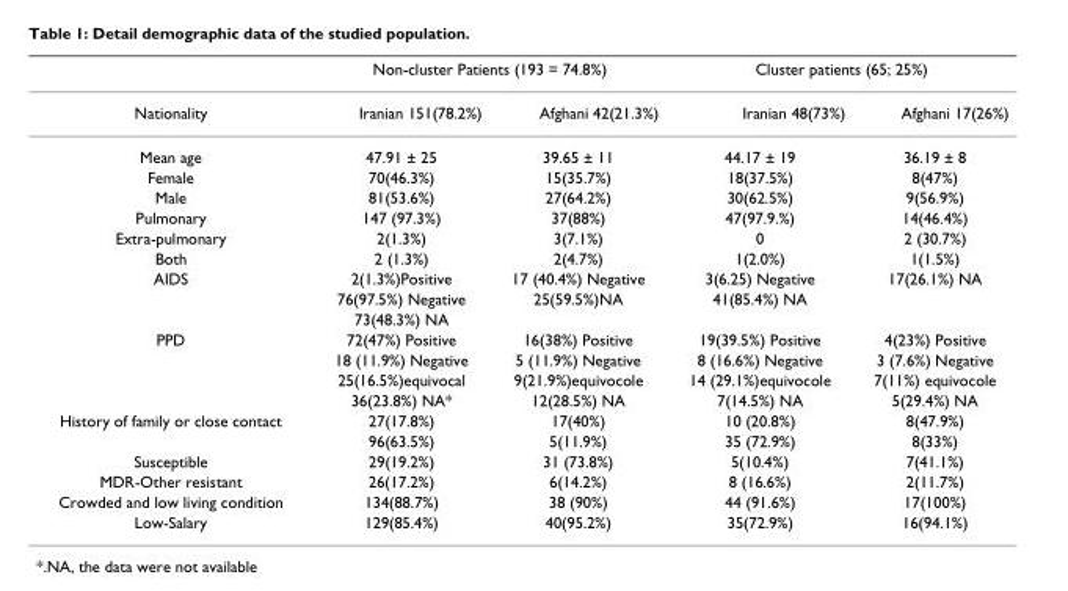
<table><thead><tr><td rowspan="2">Nationality</td><td colspan="2">Non-cluster Patients (193 = 74.8%)</td><td colspan="2">Cluster patients (65; 25%)</td></tr><tr><td>Iranian 151(78.2%)</td><td>Afghani 42(21.3%)</td><td>Iranian 48(73%)</td><td>Afghani 17(26%)</td></tr></thead><tbody><tr><td>Mean age</td><td>47.91 ± 25</td><td>39.65 ± 11</td><td>44.17 ± 19</td><td>36.19 ± 8</td></tr><tr><td>Female</td><td>70(46.3%)</td><td>15(35.7%)</td><td>18(37.5%)</td><td>8(47%)</td></tr><tr><td>Male</td><td>81(53.6%)</td><td>27(64.2%)</td><td>30(62.5%)</td><td>9(56.9%)</td></tr><tr><td>Pulmonary</td><td>147 (97.3%)</td><td>37(88%)</td><td>47(97.9.%)</td><td>14(46.4%)</td></tr><tr><td>Extra-pulmonary</td><td>2(1.3%)</td><td>3(7.1%)</td><td>0</td><td>2 (30.7%)</td></tr><tr><td>Both</td><td>2 (1.3%)</td><td>2(4.7%)</td><td>1(2.0%)</td><td>1(1.5%)</td></tr><tr><td rowspan="3">AIDS</td><td>2(1.3%)Positive</td><td>17 (40.4%) Negative</td><td>3(6.25) Negative</td><td>17(26.1%) NA</td></tr><tr><td>76(97.5%) Negative</td><td>25(59.5%)NA</td><td>41(85.4%) NA</td><td></td></tr><tr><td>73(48.3%) NA</td><td></td><td></td><td></td></tr><tr><td rowspan="4">PPD</td><td>72(47%) Positive</td><td>16(38%) Positive</td><td>19(39.5%) Positive</td><td>4(23%) Positive</td></tr><tr><td>18 (11.9%) Negative</td><td>5 (11.9%) Negative</td><td>8 (16.6%) Negative</td><td>3 (7.6%) Negative</td></tr><tr><td>25(16.5%)equivocal</td><td>9(21.9%)equivocole</td><td>14 (29.1%)equivocole</td><td>7(11%) equivocole</td></tr><tr><td>36(23.8%) NA*</td><td>12(28.5%) NA</td><td>7(14.5%) NA</td><td>5(29.4%) NA</td></tr><tr><td rowspan="2">History of family or close contact</td><td>27(17.8%)</td><td>17(40%)</td><td>10 (20.8%)</td><td>8(47.9%)</td></tr><tr><td>96(63.5%)</td><td>5(11.9%)</td><td>35 (72.9%)</td><td>8(33%)</td></tr><tr><td>Susceptible</td><td>29(19.2%)</td><td>31 (73.8%)</td><td>5(10.4%)</td><td>7(41.1%)</td></tr><tr><td>MDR-Other resistant</td><td>26(17.2%)</td><td>6(14.2%)</td><td>8 (16.6%)</td><td>2(11.7%)</td></tr><tr><td>Crowded and low living condition</td><td>134(88.7%)</td><td>38 (90%)</td><td>44 (91.6%)</td><td>17(100%)</td></tr><tr><td>Low-Salary</td><td>129(85.4%)</td><td>40(95.2%)</td><td>35(72.9%)</td><td>16(94.1%)</td></tr></tbody></table>